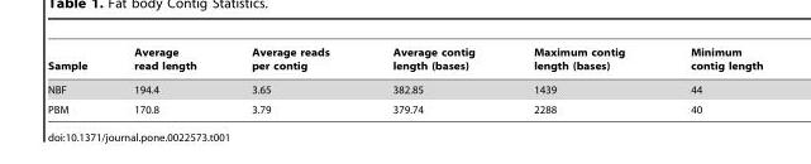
<table><thead><tr><td>Sample</td><td>Average read length</td><td>Average reads per contig</td><td>Average contig length (bases)</td><td>Maximum contig length (bases)</td><td>Minimum contig length</td></tr></thead><tbody><tr><td>NBF</td><td>194.4</td><td>3.65</td><td>382.85</td><td>1439</td><td>44</td></tr><tr><td>PBM</td><td>170.8</td><td>3.79</td><td>379.74</td><td>2288</td><td>40</td></tr></tbody></table>